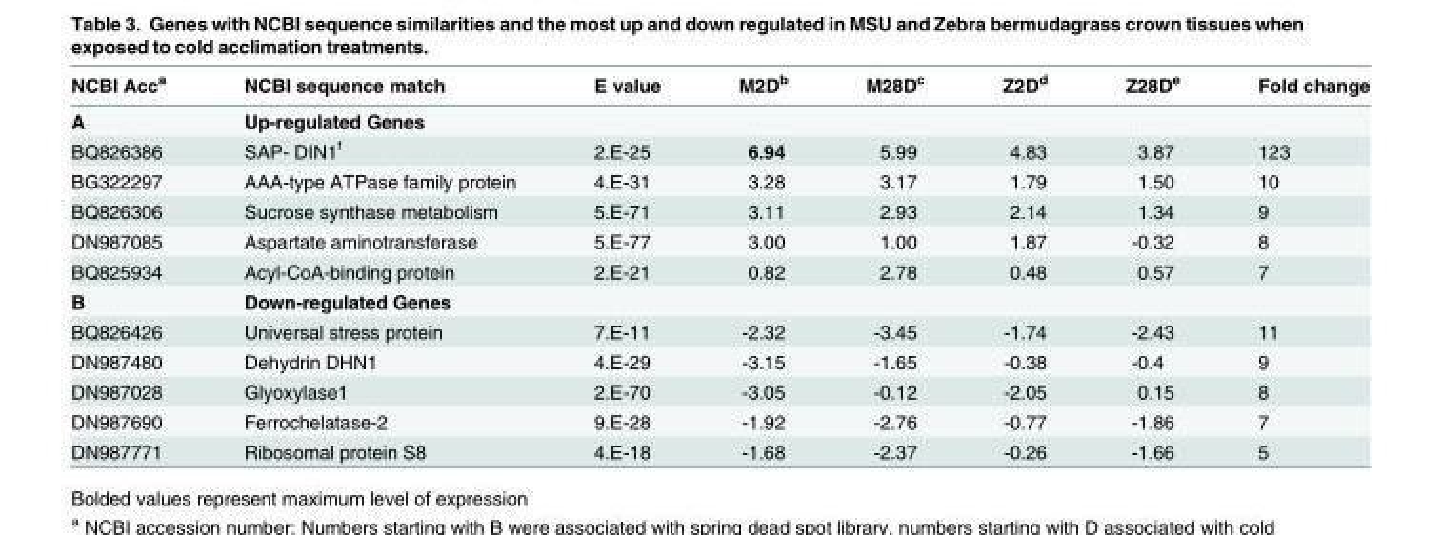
<table><thead><tr><td>NCBI Acc<sup>a</sup></td><td>NCBI sequence match</td><td>E value</td><td>M2D<sup>b</sup></td><td>M28D<sup>c</sup></td><td>Z2D<sup>d</sup></td><td>Z28D<sup>e</sup></td><td>Fold change</td></tr></thead><tbody><tr><td>A</td><td>Up-regulated Genes</td><td></td><td></td><td></td><td></td><td></td><td></td></tr><tr><td>BQ826386</td><td>SAP- DIN1<sup>f</sup></td><td>2.E-25</td><td>6.94</td><td>5.99</td><td>4.83</td><td>3.87</td><td>123</td></tr><tr><td>BG322297</td><td>AAA-type ATPase family protein</td><td>4.E-31</td><td>3.28</td><td>3.17</td><td>1.79</td><td>1.50</td><td>10</td></tr><tr><td>BQ826306</td><td>Sucrose synthase metabolism</td><td>5.E-71</td><td>3.11</td><td>2.93</td><td>2.14</td><td>1.34</td><td>9</td></tr><tr><td>DN987085</td><td>Aspartate aminotransferase</td><td>5.E-77</td><td>3.00</td><td>1.00</td><td>1.87</td><td>-0.32</td><td>8</td></tr><tr><td>BQ825934</td><td>Acyl-CoA-binding protein</td><td>2.E-21</td><td>0.82</td><td>2.78</td><td>0.48</td><td>0.57</td><td>7</td></tr><tr><td>B</td><td>Down-regulated Genes</td><td></td><td></td><td></td><td></td><td></td><td></td></tr><tr><td>BQ826426</td><td>Universal stress protein</td><td>7.E-11</td><td>-2.32</td><td>-3.45</td><td>-1.74</td><td>-2.43</td><td>11</td></tr><tr><td>DN987480</td><td>Dehydrin DHN1</td><td>4.E-29</td><td>-3.15</td><td>-1.65</td><td>-0.38</td><td>-0.4</td><td>9</td></tr><tr><td>DN987028</td><td>Glyoxylase1</td><td>2.E-70</td><td>-3.05</td><td>-0.12</td><td>-2.05</td><td>0.15</td><td>8</td></tr><tr><td>DN987690</td><td>Ferrochelatase-2</td><td>9.E-28</td><td>-1.92</td><td>-2.76</td><td>-0.77</td><td>-1.86</td><td>7</td></tr><tr><td>DN987771</td><td>Ribosomal protein S8</td><td>4.E-18</td><td>-1.68</td><td>-2.37</td><td>-0.26</td><td>-1.66</td><td>5</td></tr></tbody></table>